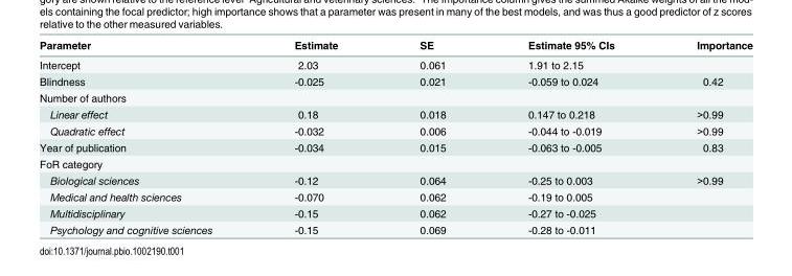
<table><thead><tr><td>Parameter</td><td>Estimate</td><td>SE</td><td>Estimate 95% CIs</td><td>Importance</td></tr></thead><tbody><tr><td>Intercept</td><td>2.03</td><td>0.061</td><td>1.91 to 2.15</td><td></td></tr><tr><td>Blindness</td><td>-0.025</td><td>0.021</td><td>-0.059 to 0.024</td><td>0.42</td></tr><tr><td colspan="5">Number of authors</td></tr><tr><td>Linear effect</td><td>0.18</td><td>0.018</td><td>0.147 to 0.218</td><td>&gt;0.99</td></tr><tr><td>Quadratic effect</td><td>-0.032</td><td>0.006</td><td>-0.044 to -0.019</td><td>&gt;0.99</td></tr><tr><td>Year of publication</td><td>-0.034</td><td>0.015</td><td>-0.063 to -0.005</td><td>0.83</td></tr><tr><td colspan="5">FoR category</td></tr><tr><td>Biological sciences</td><td>-0.12</td><td>0.064</td><td>-0.25 to 0.003</td><td>&gt;0.99</td></tr><tr><td>Medical and health sciences</td><td>-0.070</td><td>0.062</td><td>-0.19 to 0.005</td><td></td></tr><tr><td>Multidisciplinary</td><td>-0.15</td><td>0.062</td><td>-0.27 to -0.025</td><td></td></tr><tr><td>Psychology and cognitive sciences</td><td>-0.15</td><td>0.069</td><td>-0.28 to -0.011</td><td></td></tr></tbody></table>